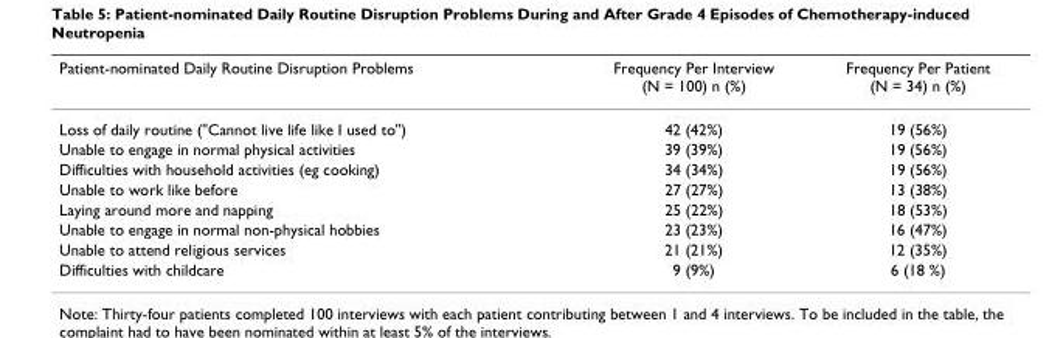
<table><thead><tr><td>Patient-nominated Daily Routine Disruption Problems</td><td>Frequency Per Interview (N = 100) n (%)</td><td>Frequency Per Patient (N = 34) n (%)</td></tr></thead><tbody><tr><td>Loss of daily routine (&quot;Cannot live life like I used to&quot;)</td><td>42 (42%)</td><td>19 (56%)</td></tr><tr><td>Unable to engage in normal physical activities</td><td>39 (39%)</td><td>19 (56%)</td></tr><tr><td>Difficulties with household activities (eg cooking)</td><td>34 (34%)</td><td>19 (56%)</td></tr><tr><td>Unable to work like before</td><td>27 (27%)</td><td>13 (38%)</td></tr><tr><td>Laying around more and napping</td><td>25 (22%)</td><td>18 (53%)</td></tr><tr><td>Unable to engage in normal non-physical hobbies</td><td>23 (23%)</td><td>16 (47%)</td></tr><tr><td>Unable to attend religious services</td><td>21 (21%)</td><td>12 (35%)</td></tr><tr><td>Difficulties with childcare</td><td>9 (9%)</td><td>6 (18 %)</td></tr></tbody></table>